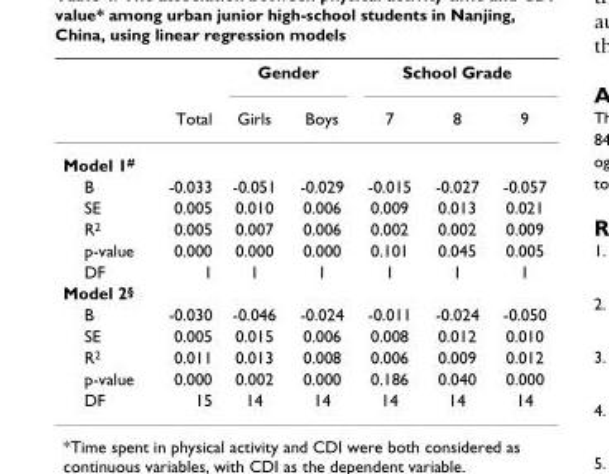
<table><thead><tr><td rowspan="2"></td><td rowspan="2">Total</td><td colspan="2">Gender</td><td colspan="3">School Grade</td></tr><tr><td>Girls</td><td>Boys</td><td>7</td><td>8</td><td>9</td></tr></thead><tbody><tr><td colspan="7">Model 1<sup>#</sup></td></tr><tr><td>B</td><td>-0.033</td><td>-0.051</td><td>-0.029</td><td>-0.015</td><td>-0.027</td><td>-0.057</td></tr><tr><td>SE</td><td>0.005</td><td>0.010</td><td>0.006</td><td>0.009</td><td>0.013</td><td>0.021</td></tr><tr><td>R<sup>2</sup></td><td>0.005</td><td>0.007</td><td>0.006</td><td>0.002</td><td>0.002</td><td>0.009</td></tr><tr><td>p-value</td><td>0.000</td><td>0.000</td><td>0.000</td><td>0.101</td><td>0.045</td><td>0.005</td></tr><tr><td>DF</td><td>1</td><td>1</td><td>1</td><td>1</td><td>1</td><td>1</td></tr><tr><td colspan="7">Model 2<sup>§</sup></td></tr><tr><td>B</td><td>-0.030</td><td>-0.046</td><td>-0.024</td><td>-0.011</td><td>-0.024</td><td>-0.050</td></tr><tr><td>SE</td><td>0.005</td><td>0.015</td><td>0.006</td><td>0.008</td><td>0.012</td><td>0.010</td></tr><tr><td>R<sup>2</sup></td><td>0.011</td><td>0.013</td><td>0.008</td><td>0.006</td><td>0.009</td><td>0.012</td></tr><tr><td>p-value</td><td>0.000</td><td>0.002</td><td>0.000</td><td>0.186</td><td>0.040</td><td>0.000</td></tr><tr><td>DF</td><td>15</td><td>14</td><td>14</td><td>14</td><td>14</td><td>14</td></tr></tbody></table>